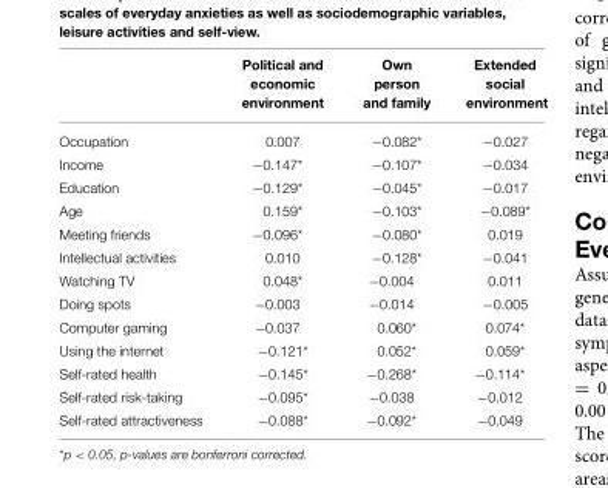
<table><thead><tr><td></td><td>Political and economic environment</td><td>Own person and family</td><td>Extended social environment</td></tr></thead><tbody><tr><td>Occupation</td><td>0.007</td><td>−0.082*</td><td>−0.027</td></tr><tr><td>Income</td><td>−0.147*</td><td>−0.107*</td><td>−0.034</td></tr><tr><td>Education</td><td>−0.129*</td><td>−0.045*</td><td>−0.017</td></tr><tr><td>Age</td><td>0.159*</td><td>−0.103*</td><td>−0.089*</td></tr><tr><td>Meeting friends</td><td>−0.096*</td><td>−0.080*</td><td>0.019</td></tr><tr><td>Intellectual activities</td><td>0.010</td><td>−0.128*</td><td>−0.041</td></tr><tr><td>Watching TV</td><td>0.048*</td><td>−0.004</td><td>0.011</td></tr><tr><td>Doing spots</td><td>−0.003</td><td>−0.014</td><td>−0.005</td></tr><tr><td>Computer gaming</td><td>−0.037</td><td>0.060*</td><td>0.074*</td></tr><tr><td>Using the internet</td><td>−0.121*</td><td>0.052*</td><td>0.059*</td></tr><tr><td>Self-rated health</td><td>−0.145*</td><td>−0.268*</td><td>−0.114*</td></tr><tr><td>Self-rated risk-taking</td><td>−0.095*</td><td>−0.038</td><td>−0.012</td></tr><tr><td>Self-rated attractiveness</td><td>−0.088*</td><td>−0.092*</td><td>−0.049</td></tr></tbody></table>